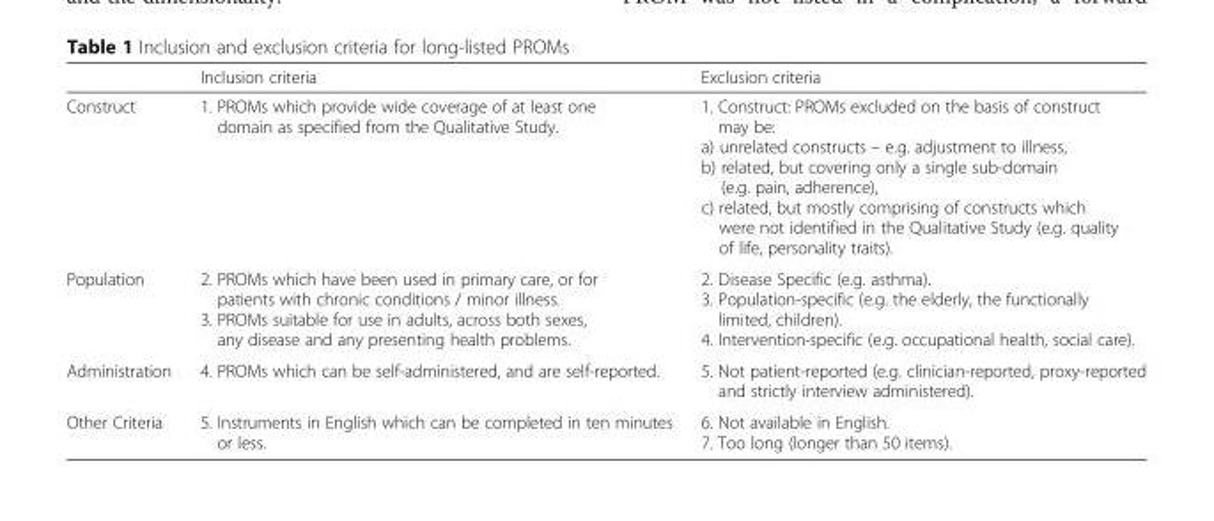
<table><thead><tr><td></td><td>Inclusion criteria</td><td>Exclusion criteria</td></tr></thead><tbody><tr><td>Construct</td><td>1. PROMs which provide wide coverage of at least one domain as specified from the Qualitative Study.</td><td>1. Construct: PROMs excluded on the basis of construct may be: a) unrelated constructs – e.g. adjustment to illness, b) related, but covering only a single sub-domain (e.g. pain, adherence), c) related, but mostly comprising of constructs which were not identified in the Qualitative Study (e.g. quality of life, personality traits).</td></tr><tr><td>Population</td><td>2. PROMs which have been used in primary care, or for patients with chronic conditions / minor illness. 3. PROMs suitable for use in adults, across both sexes, any disease and any presenting health problems.</td><td>2. Disease Specific (e.g. asthma). 3. Population-specific (e.g. the elderly, the functionally limited, children). 4. Intervention-specific (e.g. occupational health, social care).</td></tr><tr><td>Administration</td><td>4. PROMs which can be self-administered, and are self-reported.</td><td>5. Not patient-reported (e.g. clinician-reported, proxy-reported and strictly interview administered).</td></tr><tr><td>Other Criteria</td><td>5. Instruments in English which can be completed in ten minutes or less.</td><td>6. Not available in English. 7. Too long (longer than 50 items).</td></tr></tbody></table>